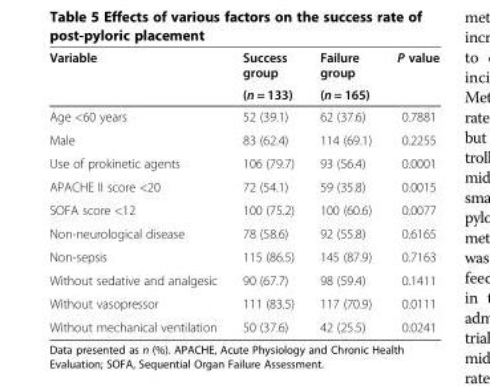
<table><thead><tr><td rowspan="2">Variable</td><td rowspan="2">Success group (n = 133)</td><td rowspan="2">Failure group (n = 165)</td><td rowspan="2">P value</td></tr><tr></tr></thead><tbody><tr><td>Age &lt;60 years</td><td>52 (39.1)</td><td>62 (37.6)</td><td>0.7881</td></tr><tr><td>Male</td><td>83 (62.4)</td><td>114 (69.1)</td><td>0.2255</td></tr><tr><td>Use of prokinetic agents</td><td>106 (79.7)</td><td>93 (56.4)</td><td>0.0001</td></tr><tr><td>APACHE II score &lt;20</td><td>72 (54.1)</td><td>59 (35.8)</td><td>0.0015</td></tr><tr><td>SOFA score &lt;12</td><td>100 (75.2)</td><td>100 (60.6)</td><td>0.0077</td></tr><tr><td>Non-neurological disease</td><td>78 (58.6)</td><td>92 (55.8)</td><td>0.6165</td></tr><tr><td>Non-sepsis</td><td>115 (86.5)</td><td>145 (87.9)</td><td>0.7163</td></tr><tr><td>Without sedative and analgesic</td><td>90 (67.7)</td><td>98 (59.4)</td><td>0.1411</td></tr><tr><td>Without vasopressor</td><td>111 (83.5)</td><td>117 (70.9)</td><td>0.0111</td></tr><tr><td>Without mechanical ventilation</td><td>50 (37.6)</td><td>42 (25.5)</td><td>0.0241</td></tr></tbody></table>